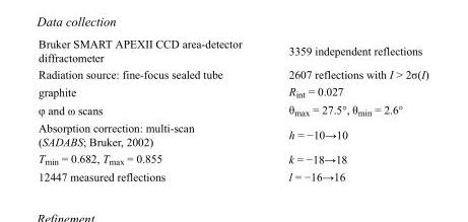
<table><tbody><tr><td>Bruker SMART APEXII CCD area-detector diffractometer</td><td>3359 independent reflections</td></tr><tr><td>Radiation source: fine-focus sealed tube</td><td>2607 reflections with I &gt; 2σ(I)</td></tr><tr><td>graphite</td><td>R<sub>int</sub> = 0.027</td></tr><tr><td>φ and ω scans</td><td>θ<sub>max</sub> = 27.5°, θ<sub>min</sub> = 2.6°</td></tr><tr><td>Absorption correction: multi-scan (SADABS; Bruker, 2002)</td><td>h = −10→10</td></tr><tr><td>T<sub>min</sub> = 0.682, T<sub>max</sub> = 0.855</td><td>k = −18→18</td></tr><tr><td>12447 measured reflections</td><td>l = −16→16</td></tr></tbody></table>